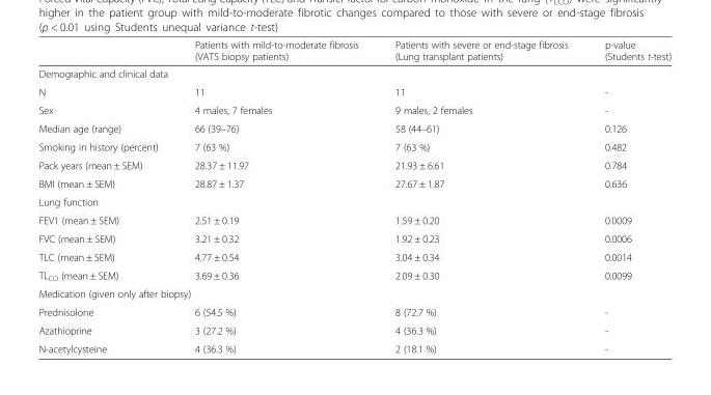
<table><thead><tr><td></td><td>Patients with mild-to-moderate fibrosis (VATS biopsy patients)</td><td>Patients with severe or end-stage fibrosis (Lung transplant patients)</td><td>p-value (Students t-test)</td></tr></thead><tbody><tr><td colspan="4">Demographic and clinical data</td></tr><tr><td>N</td><td>11</td><td>11</td><td>-</td></tr><tr><td>Sex</td><td>4 males, 7 females</td><td>9 males, 2 females</td><td>-</td></tr><tr><td>Median age (range)</td><td>66 (39–76)</td><td>58 (44–61)</td><td>0.126</td></tr><tr><td>Smoking in history (percent)</td><td>7 (63 %)</td><td>7 (63 %)</td><td>0.482</td></tr><tr><td>Pack years (mean ± SEM)</td><td>28.37 ± 11.97</td><td>21.93 ± 6.61</td><td>0.784</td></tr><tr><td>BMI (mean ± SEM)</td><td>28.87 ± 1.37</td><td>27.67 ± 1.87</td><td>0.636</td></tr><tr><td colspan="4">Lung function</td></tr><tr><td>FEV1 (mean ± SEM)</td><td>2.51 ± 0.19</td><td>1.59 ± 0.20</td><td>0.0009</td></tr><tr><td>FVC (mean ± SEM)</td><td>3.21 ± 0.32</td><td>1.92 ± 0.23</td><td>0.0006</td></tr><tr><td>TLC (mean ± SEM)</td><td>4.77 ± 0.54</td><td>3.04 ± 0.34</td><td>0.0014</td></tr><tr><td>TL<sub>CO</sub> (mean ± SEM)</td><td>3.69 ± 0.36</td><td>2.09 ± 0.30</td><td>0.0099</td></tr><tr><td colspan="4">Medication (given only after biopsy)</td></tr><tr><td>Prednisolone</td><td>6 (54.5 %)</td><td>8 (72.7 %)</td><td>-</td></tr><tr><td>Azathioprine</td><td>3 (27.2 %)</td><td>4 (36.3 %)</td><td>-</td></tr><tr><td>N-acetylcysteine</td><td>4 (36.3 %)</td><td>2 (18.1 %)</td><td>-</td></tr></tbody></table>